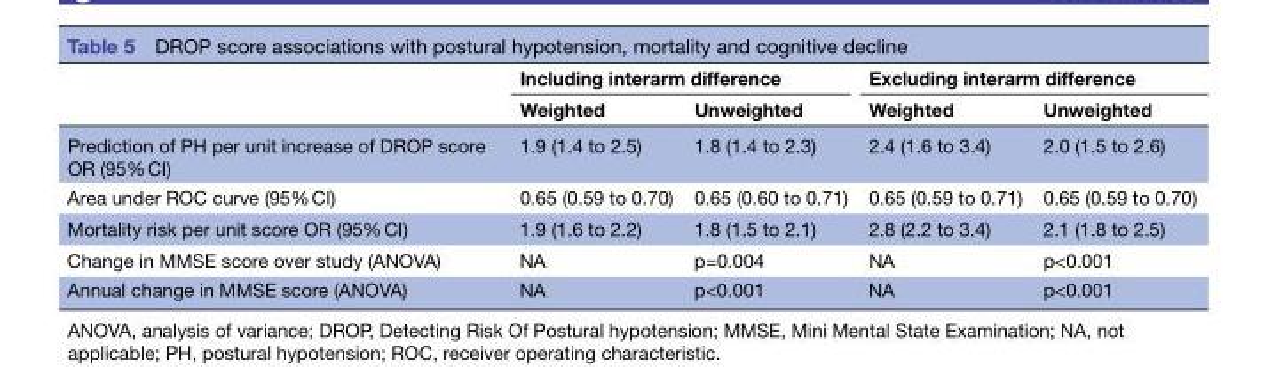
<table><thead><tr><td rowspan="2"></td><td colspan="2">Including interarm difference</td><td colspan="2">Excluding interarm difference</td></tr><tr><td>Weighted</td><td>Unweighted</td><td>Weighted</td><td>Unweighted</td></tr></thead><tbody><tr><td>Prediction of PH per unit increase of DROP score OR (95% CI)</td><td>1.9 (1.4 to 2.5)</td><td>1.8 (1.4 to 2.3)</td><td>2.4 (1.6 to 3.4)</td><td>2.0 (1.5 to 2.6)</td></tr><tr><td>Area under ROC curve (95% CI)</td><td>0.65 (0.59 to 0.70)</td><td>0.65 (0.60 to 0.71)</td><td>0.65 (0.59 to 0.71)</td><td>0.65 (0.59 to 0.70)</td></tr><tr><td>Mortality risk per unit score OR (95% CI)</td><td>1.9 (1.6 to 2.2)</td><td>1.8 (1.5 to 2.1)</td><td>2.8 (2.2 to 3.4)</td><td>2.1 (1.8 to 2.5)</td></tr><tr><td>Change in MMSE score over study (ANOVA)</td><td>NA</td><td>p=0.004</td><td>NA</td><td>p&lt;0.001</td></tr><tr><td>Annual change in MMSE score (ANOVA)</td><td>NA</td><td>p&lt;0.001</td><td>NA</td><td>p&lt;0.001</td></tr></tbody></table>